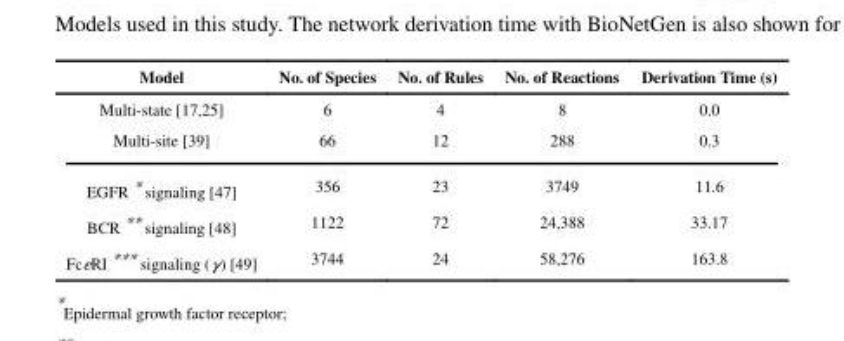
<table><thead><tr><td>Model</td><td>No. of Species</td><td>No. of Rules</td><td>No. of Reactions</td><td>Derivation Time (s)</td></tr></thead><tbody><tr><td>Multi-state [17,25]</td><td>6</td><td>4</td><td>8</td><td>0.0</td></tr><tr><td>Multi-site [39]</td><td>66</td><td>12</td><td>288</td><td>0.3</td></tr><tr><td>EGFR * signaling [47]</td><td>356</td><td>23</td><td>3749</td><td>11.6</td></tr><tr><td>BCR ** signaling [48]</td><td>1122</td><td>72</td><td>24,388</td><td>33.17</td></tr><tr><td>FcεRI *** signaling (γ) [49]</td><td>3744</td><td>24</td><td>58,276</td><td>163.8</td></tr></tbody></table>